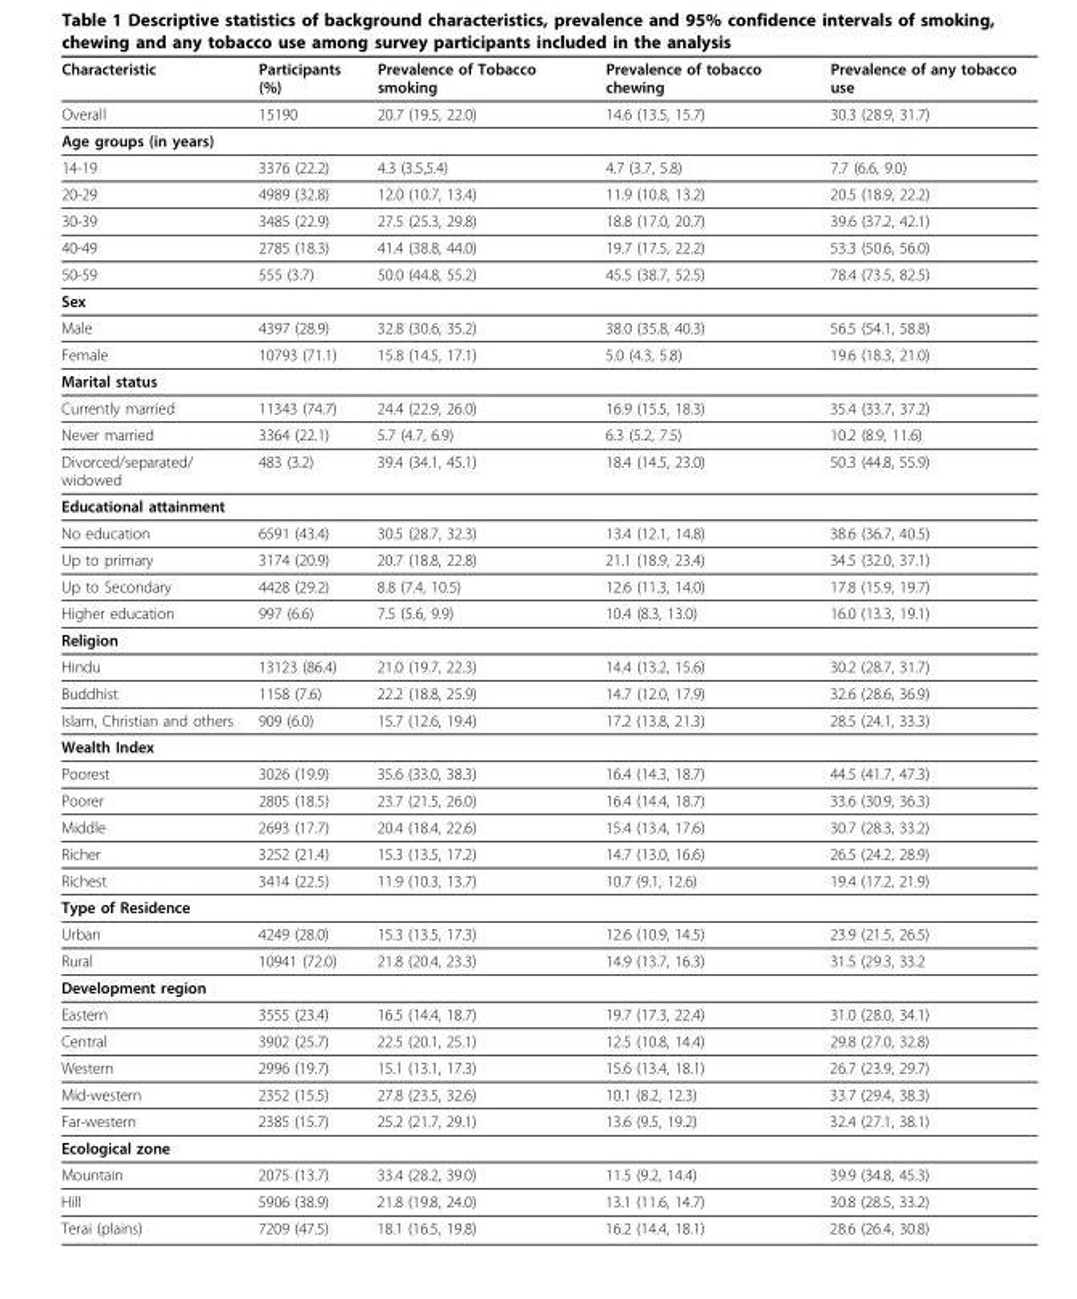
<table><thead><tr><td>Characteristic</td><td>Participants (%)</td><td>Prevalence of Tobacco smoking</td><td>Prevalence of tobacco chewing</td><td>Prevalence of any tobacco use</td></tr></thead><tbody><tr><td>Overall</td><td>15190</td><td>20.7 (19.5, 22.0)</td><td>14.6 (13.5, 15.7)</td><td>30.3 (28.9, 31.7)</td></tr><tr><td colspan="5">Age groups (in years)</td></tr><tr><td>14-19</td><td>3376 (22.2)</td><td>4.3 (3.5,5.4)</td><td>4.7 (3.7, 5.8)</td><td>7.7 (6.6, 9.0)</td></tr><tr><td>20-29</td><td>4989 (32.8)</td><td>12.0 (10.7, 13.4)</td><td>11.9 (10.8, 13.2)</td><td>20.5 (18.9, 22.2)</td></tr><tr><td>30-39</td><td>3485 (22.9)</td><td>27.5 (25.3, 29.8)</td><td>18.8 (17.0, 20.7)</td><td>39.6 (37.2, 42.1)</td></tr><tr><td>40-49</td><td>2785 (18.3)</td><td>41.4 (38.8, 44.0)</td><td>19.7 (17.5, 22.2)</td><td>53.3 (50.6, 56.0)</td></tr><tr><td>50-59</td><td>555 (3.7)</td><td>50.0 (44.8, 55.2)</td><td>45.5 (38.7, 52.5)</td><td>78.4 (73.5, 82.5)</td></tr><tr><td colspan="5">Sex</td></tr><tr><td>Male</td><td>4397 (28.9)</td><td>32.8 (30.6, 35.2)</td><td>38.0 (35.8, 40.3)</td><td>56.5 (54.1, 58.8)</td></tr><tr><td>Female</td><td>10793 (71.1)</td><td>15.8 (14.5, 17.1)</td><td>5.0 (4.3, 5.8)</td><td>19.6 (18.3, 21.0)</td></tr><tr><td colspan="5">Marital status</td></tr><tr><td>Currently married</td><td>11343 (74.7)</td><td>24.4 (22.9, 26.0)</td><td>16.9 (15.5, 18.3)</td><td>35.4 (33.7, 37.2)</td></tr><tr><td>Never married</td><td>3364 (22.1)</td><td>5.7 (4.7, 6.9)</td><td>6.3 (5.2, 7.5)</td><td>10.2 (8.9, 11.6)</td></tr><tr><td>Divorced/separated/ widowed</td><td>483 (3.2)</td><td>39.4 (34.1, 45.1)</td><td>18.4 (14.5, 23.0)</td><td>50.3 (44.8, 55.9)</td></tr><tr><td colspan="5">Educational attainment</td></tr><tr><td>No education</td><td>6591 (43.4)</td><td>30.5 (28.7, 32.3)</td><td>13.4 (12.1, 14.8)</td><td>38.6 (36.7, 40.5)</td></tr><tr><td>Up to primary</td><td>3174 (20.9)</td><td>20.7 (18.8, 22.8)</td><td>21.1 (18.9, 23.4)</td><td>34.5 (32.0, 37.1)</td></tr><tr><td>Up to Secondary</td><td>4428 (29.2)</td><td>8.8 (7.4, 10.5)</td><td>12.6 (11.3, 14.0)</td><td>17.8 (15.9, 19.7)</td></tr><tr><td>Higher education</td><td>997 (6.6)</td><td>7.5 (5.6, 9.9)</td><td>10.4 (8.3, 13.0)</td><td>16.0 (13.3, 19.1)</td></tr><tr><td colspan="5">Religion</td></tr><tr><td>Hindu</td><td>13123 (86.4)</td><td>21.0 (19.7, 22.3)</td><td>14.4 (13.2, 15.6)</td><td>30.2 (28.7, 31.7)</td></tr><tr><td>Buddhist</td><td>1158 (7.6)</td><td>22.2 (18.8, 25.9)</td><td>14.7 (12.0, 17.9)</td><td>32.6 (28.6, 36.9)</td></tr><tr><td>Islam, Christian and others</td><td>909 (6.0)</td><td>15.7 (12.6, 19.4)</td><td>17.2 (13.8, 21.3)</td><td>28.5 (24.1, 33.3)</td></tr><tr><td colspan="5">Wealth Index</td></tr><tr><td>Poorest</td><td>3026 (19.9)</td><td>35.6 (33.0, 38.3)</td><td>16.4 (14.3, 18.7)</td><td>44.5 (41.7, 47.3)</td></tr><tr><td>Poorer</td><td>2805 (18.5)</td><td>23.7 (21.5, 26.0)</td><td>16.4 (14.4, 18.7)</td><td>33.6 (30.9, 36.3)</td></tr><tr><td>Middle</td><td>2693 (17.7)</td><td>20.4 (18.4, 22.6)</td><td>15.4 (13.4, 17.6)</td><td>30.7 (28.3, 33.2)</td></tr><tr><td>Richer</td><td>3252 (21.4)</td><td>15.3 (13.5, 17.2)</td><td>14.7 (13.0, 16.6)</td><td>26.5 (24.2, 28.9)</td></tr><tr><td>Richest</td><td>3414 (22.5)</td><td>11.9 (10.3, 13.7)</td><td>10.7 (9.1, 12.6)</td><td>19.4 (17.2, 21.9)</td></tr><tr><td colspan="5">Type of Residence</td></tr><tr><td>Urban</td><td>4249 (28.0)</td><td>15.3 (13.5, 17.3)</td><td>12.6 (10.9, 14.5)</td><td>23.9 (21.5, 26.5)</td></tr><tr><td>Rural</td><td>10941 (72.0)</td><td>21.8 (20.4, 23.3)</td><td>14.9 (13.7, 16.3)</td><td>31.5 (29.3, 33.2</td></tr><tr><td colspan="5">Development region</td></tr><tr><td>Eastern</td><td>3555 (23.4)</td><td>16.5 (14.4, 18.7)</td><td>19.7 (17.3, 22.4)</td><td>31.0 (28.0, 34.1)</td></tr><tr><td>Central</td><td>3902 (25.7)</td><td>22.5 (20.1, 25.1)</td><td>12.5 (10.8, 14.4)</td><td>29.8 (27.0, 32.8)</td></tr><tr><td>Western</td><td>2996 (19.7)</td><td>15.1 (13.1, 17.3)</td><td>15.6 (13.4, 18.1)</td><td>26.7 (23.9, 29.7)</td></tr><tr><td>Mid-western</td><td>2352 (15.5)</td><td>27.8 (23.5, 32.6)</td><td>10.1 (8.2, 12.3)</td><td>33.7 (29.4, 38.3)</td></tr><tr><td>Far-western</td><td>2385 (15.7)</td><td>25.2 (21.7, 29.1)</td><td>13.6 (9.5, 19.2)</td><td>32.4 (27.1, 38.1)</td></tr><tr><td colspan="5">Ecological zone</td></tr><tr><td>Mountain</td><td>2075 (13.7)</td><td>33.4 (28.2, 39.0)</td><td>11.5 (9.2, 14.4)</td><td>39.9 (34.8, 45.3)</td></tr><tr><td>Hill</td><td>5906 (38.9)</td><td>21.8 (19.8, 24.0)</td><td>13.1 (11.6, 14.7)</td><td>30.8 (28.5, 33.2)</td></tr><tr><td>Terai (plains)</td><td>7209 (47.5)</td><td>18.1 (16.5, 19.8)</td><td>16.2 (14.4, 18.1)</td><td>28.6 (26.4, 30.8)</td></tr></tbody></table>